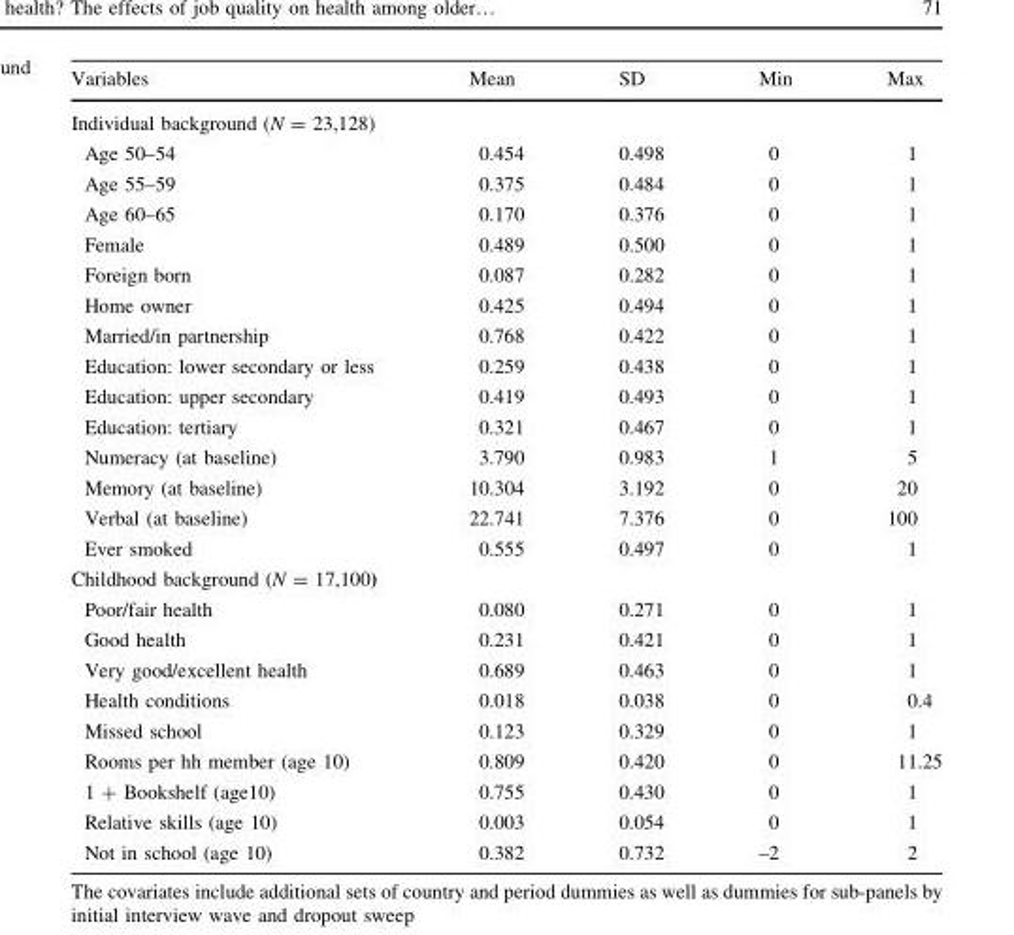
<table><thead><tr><td>Variables</td><td>Mean</td><td>SD</td><td>Min</td><td>Max</td></tr></thead><tbody><tr><td colspan="5">Individual background (N = 23,128)</td></tr><tr><td>Age 50–54</td><td>0.454</td><td>0.498</td><td>0</td><td>1</td></tr><tr><td>Age 55–59</td><td>0.375</td><td>0.484</td><td>0</td><td>1</td></tr><tr><td>Age 60–65</td><td>0.170</td><td>0.376</td><td>0</td><td>1</td></tr><tr><td>Female</td><td>0.489</td><td>0.500</td><td>0</td><td>1</td></tr><tr><td>Foreign born</td><td>0.087</td><td>0.282</td><td>0</td><td>1</td></tr><tr><td>Home owner</td><td>0.425</td><td>0.494</td><td>0</td><td>1</td></tr><tr><td>Married/in partnership</td><td>0.768</td><td>0.422</td><td>0</td><td>1</td></tr><tr><td>Education: lower secondary or less</td><td>0.259</td><td>0.438</td><td>0</td><td>1</td></tr><tr><td>Education: upper secondary</td><td>0.419</td><td>0.493</td><td>0</td><td>1</td></tr><tr><td>Education: tertiary</td><td>0.321</td><td>0.467</td><td>0</td><td>1</td></tr><tr><td>Numeracy (at baseline)</td><td>3.790</td><td>0.983</td><td>1</td><td>5</td></tr><tr><td>Memory (at baseline)</td><td>10.304</td><td>3.192</td><td>0</td><td>20</td></tr><tr><td>Verbal (at baseline)</td><td>22.741</td><td>7.376</td><td>0</td><td>100</td></tr><tr><td>Ever smoked</td><td>0.555</td><td>0.497</td><td>0</td><td>1</td></tr><tr><td colspan="5">Childhood background (N = 17,100)</td></tr><tr><td>Poor/fair health</td><td>0.080</td><td>0.271</td><td>0</td><td>1</td></tr><tr><td>Good health</td><td>0.231</td><td>0.421</td><td>0</td><td>1</td></tr><tr><td>Very good/excellent health</td><td>0.689</td><td>0.463</td><td>0</td><td>1</td></tr><tr><td>Health conditions</td><td>0.018</td><td>0.038</td><td>0</td><td>0.4</td></tr><tr><td>Missed school</td><td>0.123</td><td>0.329</td><td>0</td><td>1</td></tr><tr><td>Rooms per hh member (age 10)</td><td>0.809</td><td>0.420</td><td>0</td><td>11.25</td></tr><tr><td>1 + Bookshelf (age10)</td><td>0.755</td><td>0.430</td><td>0</td><td>1</td></tr><tr><td>Relative skills (age 10)</td><td>0.003</td><td>0.054</td><td>0</td><td>1</td></tr><tr><td>Not in school (age 10)</td><td>0.382</td><td>0.732</td><td>–2</td><td>2</td></tr></tbody></table>